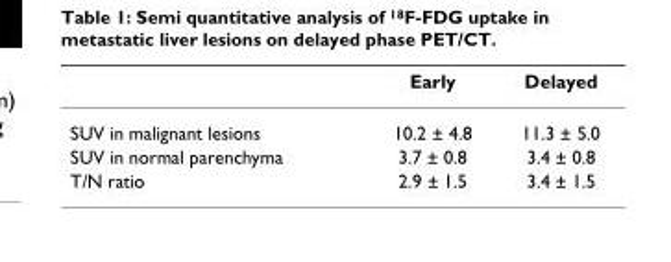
<table><thead><tr><td></td><td>Early</td><td>Delayed</td></tr></thead><tbody><tr><td>SUV in malignant lesions</td><td>10.2 ± 4.8</td><td>11.3 ± 5.0</td></tr><tr><td>SUV in normal parenchyma</td><td>3.7 ± 0.8</td><td>3.4 ± 0.8</td></tr><tr><td>T/N ratio</td><td>2.9 ± 1.5</td><td>3.4 ± 1.5</td></tr></tbody></table>